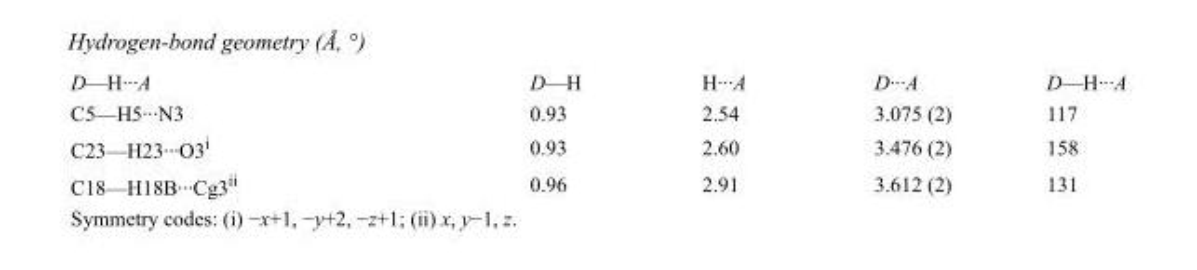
<table><tbody><tr><td>D—H···A</td><td>D—H</td><td>H···A</td><td>D···A</td><td>D—H···A</td></tr><tr><td>C5—H5···N3</td><td>0.93</td><td>2.54</td><td>3.075 (2)</td><td>117</td></tr><tr><td>C23—H23···O3<sup>i</sup></td><td>0.93</td><td>2.60</td><td>3.476 (2)</td><td>158</td></tr><tr><td>C18—H18B···Cg3<sup>ii</sup></td><td>0.96</td><td>2.91</td><td>3.612 (2)</td><td>131</td></tr></tbody></table>